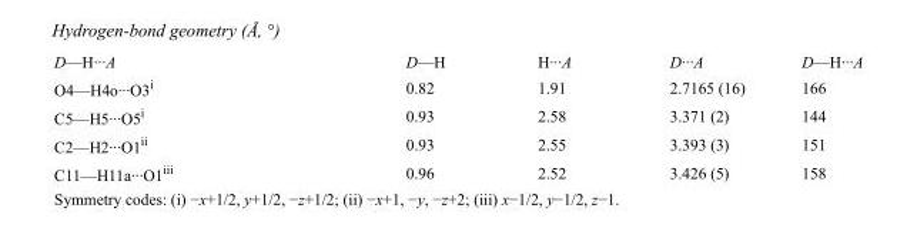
<table><tbody><tr><td>D—H···A</td><td>D—H</td><td>H···A</td><td>D···A</td><td>D—H···A</td></tr><tr><td>O4—H4o···O3<sup>i</sup></td><td>0.82</td><td>1.91</td><td>2.7165 (16)</td><td>166</td></tr><tr><td>C5—H5···O5<sup>i</sup></td><td>0.93</td><td>2.58</td><td>3.371 (2)</td><td>144</td></tr><tr><td>C2—H2···O1<sup>ii</sup></td><td>0.93</td><td>2.55</td><td>3.393 (3)</td><td>151</td></tr><tr><td>C11—H11a···O1<sup>iii</sup></td><td>0.96</td><td>2.52</td><td>3.426 (5)</td><td>158</td></tr></tbody></table>